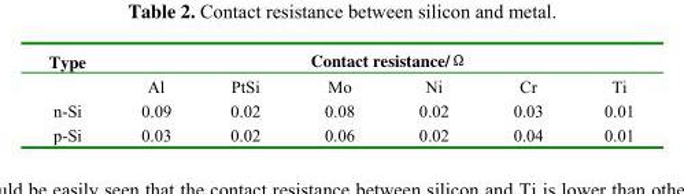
<table><thead><tr><td rowspan="2">Type</td><td colspan="6">Contact resistance/Ω</td></tr><tr><td>Al</td><td>PtSi</td><td>Mo</td><td>Ni</td><td>Cr</td><td>Ti</td></tr></thead><tbody><tr><td>n-Si</td><td>0.09</td><td>0.02</td><td>0.08</td><td>0.02</td><td>0.03</td><td>0.01</td></tr><tr><td>p-Si</td><td>0.03</td><td>0.02</td><td>0.06</td><td>0.02</td><td>0.04</td><td>0.01</td></tr></tbody></table>